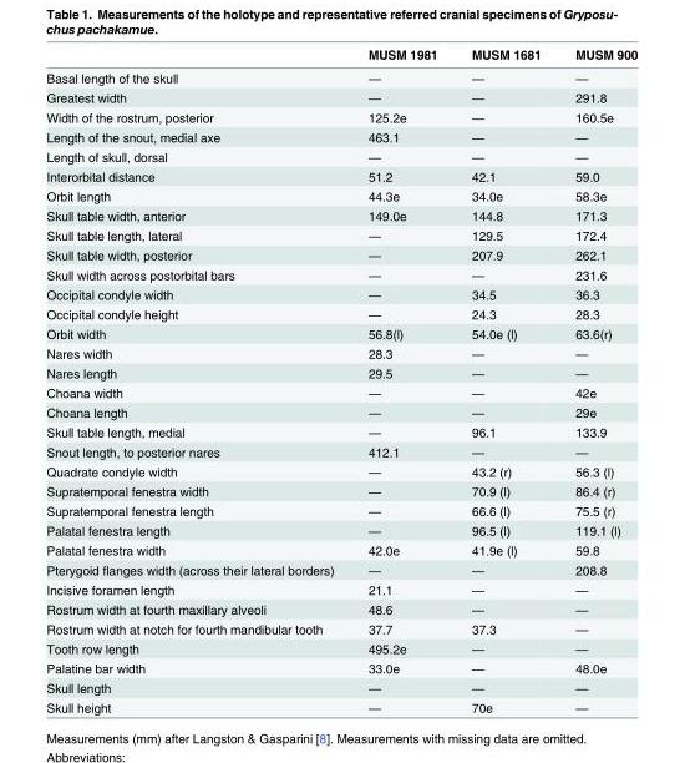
<table><thead><tr><td></td><td>MUSM 1981</td><td>MUSM 1681</td><td>MUSM 900</td></tr></thead><tbody><tr><td>Basal length of the skull</td><td>—</td><td>—</td><td>—</td></tr><tr><td>Greatest width</td><td>—</td><td>—</td><td>291.8</td></tr><tr><td>Width of the rostrum, posterior</td><td>125.2e</td><td>—</td><td>160.5e</td></tr><tr><td>Length of the snout, medial axe</td><td>463.1</td><td>—</td><td>—</td></tr><tr><td>Length of skull, dorsal</td><td>—</td><td>—</td><td>—</td></tr><tr><td>Interorbital distance</td><td>51.2</td><td>42.1</td><td>59.0</td></tr><tr><td>Orbit length</td><td>44.3e</td><td>34.0e</td><td>58.3e</td></tr><tr><td>Skull table width, anterior</td><td>149.0e</td><td>144.8</td><td>171.3</td></tr><tr><td>Skull table length, lateral</td><td>—</td><td>129.5</td><td>172.4</td></tr><tr><td>Skull table width, posterior</td><td>—</td><td>207.9</td><td>262.1</td></tr><tr><td>Skull width across postorbital bars</td><td>—</td><td>—</td><td>231.6</td></tr><tr><td>Occipital condyle width</td><td>—</td><td>34.5</td><td>36.3</td></tr><tr><td>Occipital condyle height</td><td>—</td><td>24.3</td><td>28.3</td></tr><tr><td>Orbit width</td><td>56.8(l)</td><td>54.0e (l)</td><td>63.6(r)</td></tr><tr><td>Nares width</td><td>28.3</td><td>—</td><td>—</td></tr><tr><td>Nares length</td><td>29.5</td><td>—</td><td>—</td></tr><tr><td>Choana width</td><td>—</td><td>—</td><td>42e</td></tr><tr><td>Choana length</td><td>—</td><td>—</td><td>29e</td></tr><tr><td>Skull table length, medial</td><td>—</td><td>96.1</td><td>133.9</td></tr><tr><td>Snout length, to posterior nares</td><td>412.1</td><td>—</td><td>—</td></tr><tr><td>Quadrate condyle width</td><td>—</td><td>43.2 (r)</td><td>56.3 (l)</td></tr><tr><td>Supratemporal fenestra width</td><td>—</td><td>70.9 (l)</td><td>86.4 (r)</td></tr><tr><td>Supratemporal fenestra length</td><td>—</td><td>66.6 (l)</td><td>75.5 (r)</td></tr><tr><td>Palatal fenestra length</td><td>—</td><td>96.5 (l)</td><td>119.1 (l)</td></tr><tr><td>Palatal fenestra width</td><td>42.0e</td><td>41.9e (l)</td><td>59.8</td></tr><tr><td>Pterygoid flanges width (across their lateral borders)</td><td>—</td><td>—</td><td>208.8</td></tr><tr><td>Incisive foramen length</td><td>21.1</td><td>—</td><td>—</td></tr><tr><td>Rostrum width at fourth maxillary alveoli</td><td>48.6</td><td>—</td><td>—</td></tr><tr><td>Rostrum width at notch for fourth mandibular tooth</td><td>37.7</td><td>37.3</td><td>—</td></tr><tr><td>Tooth row length</td><td>495.2e</td><td>—</td><td>—</td></tr><tr><td>Palatine bar width</td><td>33.0e</td><td>—</td><td>48.0e</td></tr><tr><td>Skull length</td><td>—</td><td>—</td><td>—</td></tr><tr><td>Skull height</td><td>—</td><td>70e</td><td>—</td></tr></tbody></table>